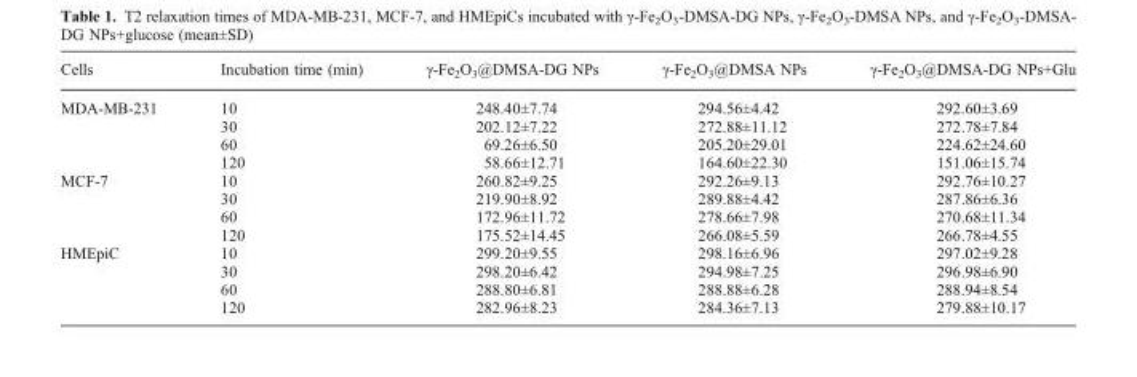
<table><thead><tr><td>Cells</td><td>Incubation time (min)</td><td>γ-Fe<sub>2</sub>O<sub>3</sub>@DMSA-DG NPs</td><td>γ-Fe<sub>2</sub>O<sub>3</sub>@DMSA NPs</td><td>γ-Fe<sub>2</sub>O<sub>3</sub>@DMSA-DG NPs+Glu</td></tr></thead><tbody><tr><td rowspan="4">MDA-MB-231</td><td>10</td><td>248.40±7.74</td><td>294.56±4.42</td><td>292.60±3.69</td></tr><tr><td>30</td><td>202.12±7.22</td><td>272.88±11.12</td><td>272.78±7.84</td></tr><tr><td>60</td><td>69.26±6.50</td><td>205.20±29.01</td><td>224.62±24.60</td></tr><tr><td>120</td><td>58.66±12.71</td><td>164.60±22.30</td><td>151.06±15.74</td></tr><tr><td rowspan="4">MCF-7</td><td>10</td><td>260.82±9.25</td><td>292.26±9.13</td><td>292.76±10.27</td></tr><tr><td>30</td><td>219.90±8.92</td><td>289.88±4.42</td><td>287.86±6.36</td></tr><tr><td>60</td><td>172.96±11.72</td><td>278.66±7.98</td><td>270.68±11.34</td></tr><tr><td>120</td><td>175.52±14.45</td><td>266.08±5.59</td><td>266.78±4.55</td></tr><tr><td rowspan="4">HMEpiC</td><td>10</td><td>299.20±9.55</td><td>298.16±6.96</td><td>297.02±9.28</td></tr><tr><td>30</td><td>298.20±6.42</td><td>294.98±7.25</td><td>296.98±6.90</td></tr><tr><td>60</td><td>288.80±6.81</td><td>288.88±6.28</td><td>288.94±8.54</td></tr><tr><td>120</td><td>282.96±8.23</td><td>284.36±7.13</td><td>279.88±10.17</td></tr></tbody></table>